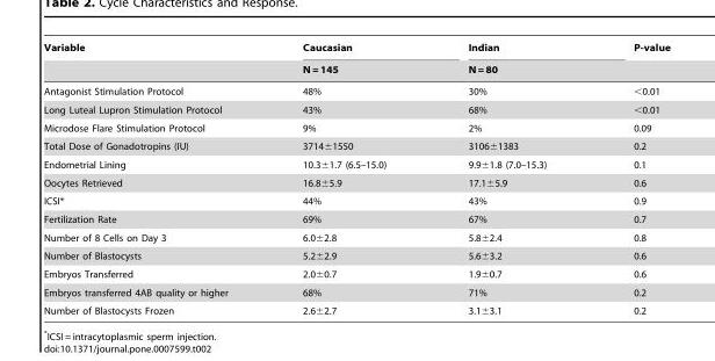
<table><thead><tr><td rowspan="2">Variable</td><td rowspan="2">Caucasian N = 145</td><td rowspan="2">Indian N = 80</td><td rowspan="2">P-value</td></tr><tr></tr></thead><tbody><tr><td>Antagonist Stimulation Protocol</td><td>48%</td><td>30%</td><td>&lt;0.01</td></tr><tr><td>Long Luteal Lupron Stimulation Protocol</td><td>43%</td><td>68%</td><td>&lt;0.01</td></tr><tr><td>Microdose Flare Stimulation Protocol</td><td>9%</td><td>2%</td><td>0.09</td></tr><tr><td>Total Dose of Gonadotropins (IU)</td><td>3714±1550</td><td>3106±1383</td><td>0.2</td></tr><tr><td>Endometrial Lining</td><td>10.3±1.7 (6.5–15.0)</td><td>9.9±1.8 (7.0–15.3)</td><td>0.1</td></tr><tr><td>Oocytes Retrieved</td><td>16.8±5.9</td><td>17.1±5.9</td><td>0.6</td></tr><tr><td>ICSI*</td><td>44%</td><td>43%</td><td>0.9</td></tr><tr><td>Fertilization Rate</td><td>69%</td><td>67%</td><td>0.7</td></tr><tr><td>Number of 8 Cells on Day 3</td><td>6.0±2.8</td><td>5.8±2.4</td><td>0.8</td></tr><tr><td>Number of Blastocysts</td><td>5.2±2.9</td><td>5.6±3.2</td><td>0.6</td></tr><tr><td>Embryos Transferred</td><td>2.0±0.7</td><td>1.9±0.7</td><td>0.6</td></tr><tr><td>Embryos transferred 4AB quality or higher</td><td>68%</td><td>71%</td><td>0.2</td></tr><tr><td>Number of Blastocysts Frozen</td><td>2.6±2.7</td><td>3.1±3.1</td><td>0.2</td></tr></tbody></table>